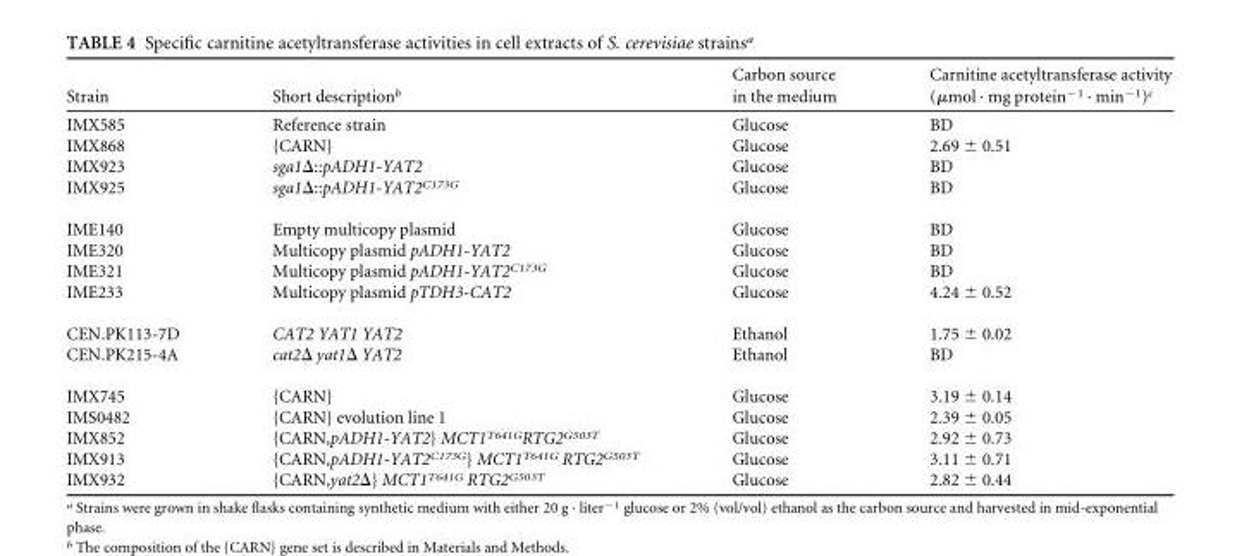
<table><thead><tr><td>Strain</td><td>Short description<sup>b</sup></td><td>Carbon source in the medium</td><td>Carnitine acetyltransferase activity (µmol · mg protein−1 · min−1)c</td></tr></thead><tbody><tr><td>IMX585</td><td>Reference strain</td><td>Glucose</td><td>BD</td></tr><tr><td>IMX868</td><td>{CARN}</td><td>Glucose</td><td>2.69 ± 0.51</td></tr><tr><td>IMX923</td><td>sga1Δ::pADH1-YAT2</td><td>Glucose</td><td>BD</td></tr><tr><td>IMX925</td><td>sga1Δ::pADH1-YAT2<sup>C173G</sup></td><td>Glucose</td><td>BD</td></tr><tr><td>IME140</td><td>Empty multicopy plasmid</td><td>Glucose</td><td>BD</td></tr><tr><td>IME320</td><td>Multicopy plasmid pADH1-YAT2</td><td>Glucose</td><td>BD</td></tr><tr><td>IME321</td><td>Multicopy plasmid pADH1-YAT2<sup>C173G</sup></td><td>Glucose</td><td>BD</td></tr><tr><td>IME233</td><td>Multicopy plasmid pTDH3-CAT2</td><td>Glucose</td><td>4.24 ± 0.52</td></tr><tr><td>CEN.PK113-7D</td><td>CAT2 YAT1 YAT2</td><td>Ethanol</td><td>1.75 ± 0.02</td></tr><tr><td>CEN.PK215-4A</td><td>cat2Δ yat1Δ YAT2</td><td>Ethanol</td><td>BD</td></tr><tr><td>IMX745</td><td>{CARN}</td><td>Glucose</td><td>3.19 ± 0.14</td></tr><tr><td>IMS0482</td><td>{CARN} evolution line 1</td><td>Glucose</td><td>2.39 ± 0.05</td></tr><tr><td>IMX852</td><td>{CARN,pADH1-YAT2} MCT1<sup>T641G</sup>RTG2<sup>G503T</sup></td><td>Glucose</td><td>2.92 ± 0.73</td></tr><tr><td>IMX913</td><td>{CARN,pADH1-YAT2<sup>C173G</sup>} MCT1<sup>T641G</sup> RTG2<sup>G503T</sup></td><td>Glucose</td><td>3.11 ± 0.71</td></tr><tr><td>IMX932</td><td>{CARN,yat2Δ} MCT1<sup>T641G</sup> RTG2<sup>G503T</sup></td><td>Glucose</td><td>2.82 ± 0.44</td></tr></tbody></table>